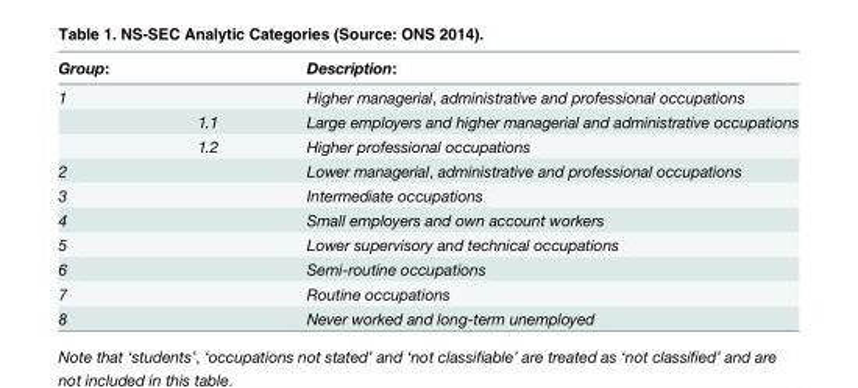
<table><thead><tr><td>Group:</td><td></td><td>Description:</td></tr></thead><tbody><tr><td rowspan="3">1</td><td></td><td>Higher managerial, administrative and professional occupations</td></tr><tr><td>1.1</td><td>Large employers and higher managerial and administrative occupations</td></tr><tr><td>1.2</td><td>Higher professional occupations</td></tr><tr><td>2</td><td></td><td>Lower managerial, administrative and professional occupations</td></tr><tr><td>3</td><td></td><td>Intermediate occupations</td></tr><tr><td>4</td><td></td><td>Small employers and own account workers</td></tr><tr><td>5</td><td></td><td>Lower supervisory and technical occupations</td></tr><tr><td>6</td><td></td><td>Semi-routine occupations</td></tr><tr><td>7</td><td></td><td>Routine occupations</td></tr><tr><td>8</td><td></td><td>Never worked and long-term unemployed</td></tr></tbody></table>